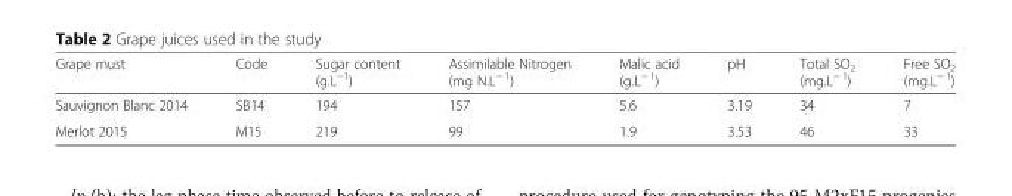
<table><thead><tr><td>Grape must</td><td>Code</td><td>Sugar content (g.L<sup>−1</sup>)</td><td>Assimilable Nitrogen (mg N.L<sup>− 1</sup>)</td><td>Malic acid (g.L<sup>− 1</sup>)</td><td>pH</td><td>Total SO<sub>2</sub> (mg.L<sup>− 1</sup>)</td><td>Free SO<sub>2</sub> (mg.L<sup>− 1</sup>)</td></tr></thead><tbody><tr><td>Sauvignon Blanc 2014</td><td>SB14</td><td>194</td><td>157</td><td>5.6</td><td>3.19</td><td>34</td><td>7</td></tr><tr><td>Merlot 2015</td><td>M15</td><td>219</td><td>99</td><td>1.9</td><td>3.53</td><td>46</td><td>33</td></tr></tbody></table>